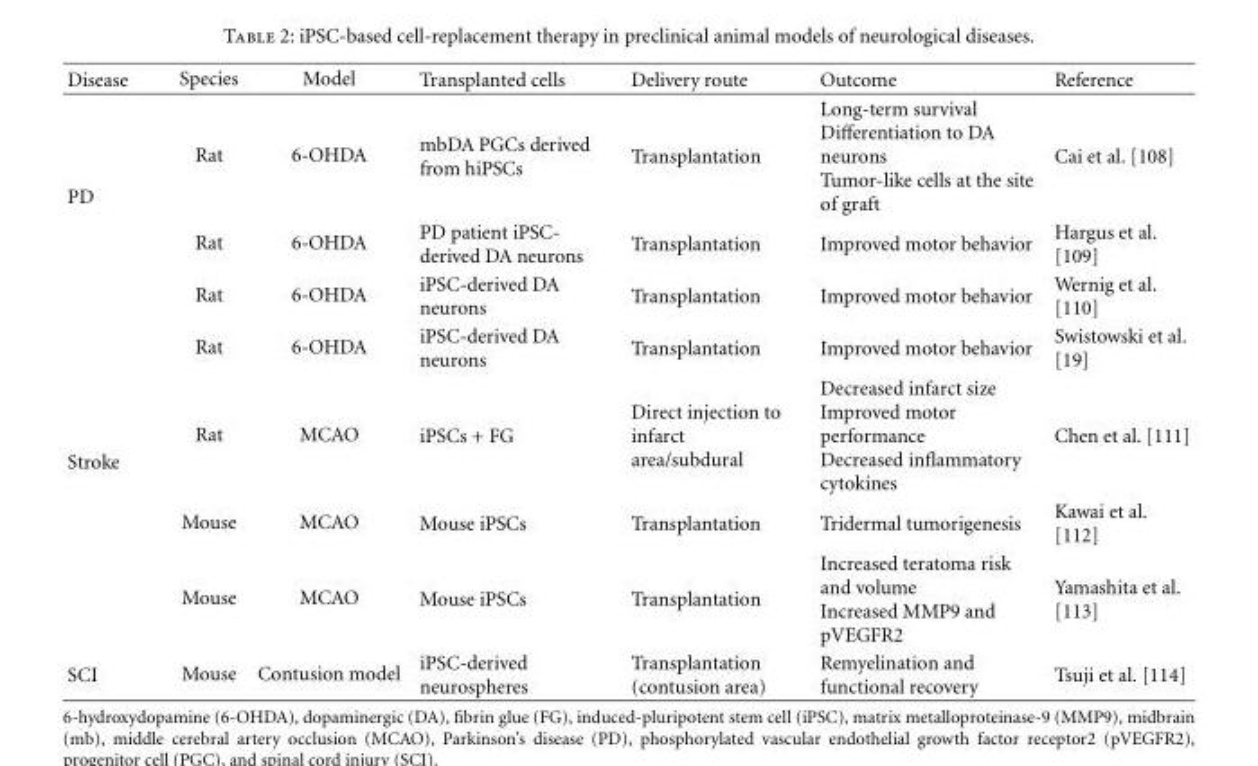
<table><thead><tr><td>Disease</td><td>Species</td><td>Model</td><td>Transplanted cells</td><td>Delivery route</td><td>Outcome</td><td>Reference</td></tr></thead><tbody><tr><td rowspan="4">PD</td><td>Rat</td><td>6-OHDA</td><td>mbDA PGCs derived from hiPSCs</td><td>Transplantation</td><td>Long-term survival Differentiation to DA neurons Tumor-like cells at the site of graft</td><td>Cai et al. [108]</td></tr><tr><td>Rat</td><td>6-OHDA</td><td>PD patient iPSC- derived DA neurons</td><td>Transplantation</td><td>Improved motor behavior</td><td>Hargus et al. [109]</td></tr><tr><td>Rat</td><td>6-OHDA</td><td>iPSC-derived DA neurons</td><td>Transplantation</td><td>Improved motor behavior</td><td>Wernig et al. [110]</td></tr><tr><td>Rat</td><td>6-OHDA</td><td>iPSC-derived DA neurons</td><td>Transplantation</td><td>Improved motor behavior</td><td>Swistowski et al. [19]</td></tr><tr><td rowspan="3">Stroke</td><td>Rat</td><td>MCAO</td><td>iPSCs + FG</td><td>Direct injection to infarct area/subdural</td><td>Decreased infarct size Improved motor performance Decreased inflammatory cytokines</td><td>Chen et al. [111]</td></tr><tr><td>Mouse</td><td>MCAO</td><td>Mouse iPSCs</td><td>Transplantation</td><td>Tridermal tumorigenesis</td><td>Kawai et al. [112]</td></tr><tr><td>Mouse</td><td>MCAO</td><td>Mouse iPSCs</td><td>Transplantation</td><td>Increased teratoma risk and volume Increased MMP9 and pVEGFR2</td><td>Yamashita et al. [113]</td></tr><tr><td>SCI</td><td>Mouse</td><td>Contusion model</td><td>iPSC-derived neurospheres</td><td>Transplantation (contusion area)</td><td>Remyelination and functional recovery</td><td>Tsuji et al. [114]</td></tr></tbody></table>